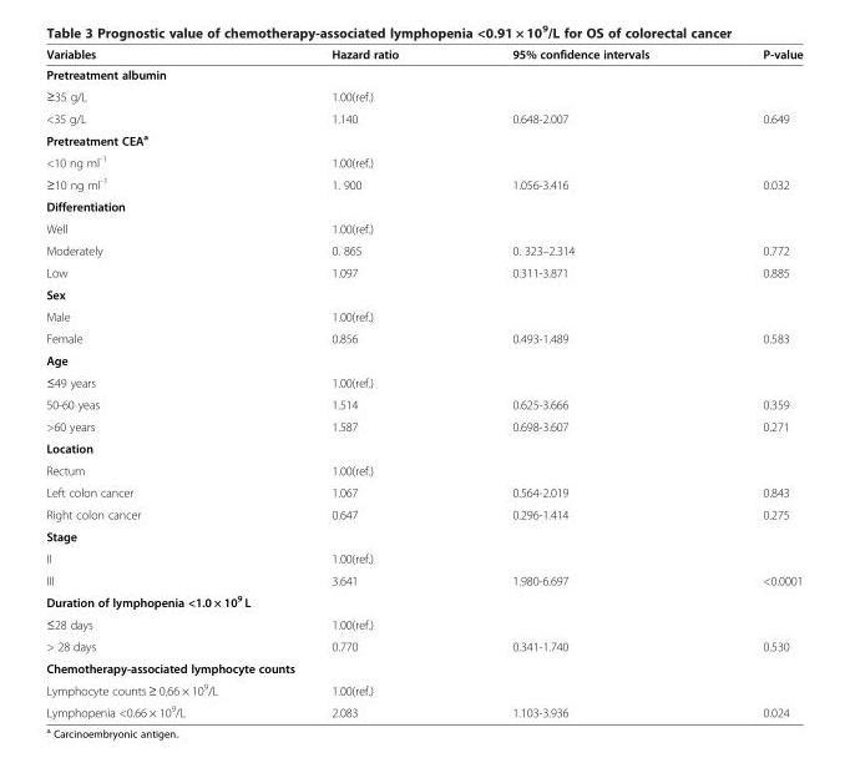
<table><thead><tr><td>Variables</td><td>Hazard ratio</td><td>95% confidence intervals</td><td>P-value</td></tr></thead><tbody><tr><td colspan="4">Pretreatment albumin</td></tr><tr><td>≥35 g/L</td><td>1.00(ref.)</td><td></td><td></td></tr><tr><td>&lt;35 g/L</td><td>1.140</td><td>0.648-2.007</td><td>0.649</td></tr><tr><td colspan="4">Pretreatment CEA<sup>a</sup></td></tr><tr><td>&lt;10 ng ml<sup>-1</sup></td><td>1.00(ref.)</td><td></td><td></td></tr><tr><td>≥10 ng ml<sup>-1</sup></td><td>1. 900</td><td>1.056-3.416</td><td>0.032</td></tr><tr><td colspan="4">Differentiation</td></tr><tr><td>Well</td><td>1.00(ref.)</td><td></td><td></td></tr><tr><td>Moderately</td><td>0. 865</td><td>0. 323–2.314</td><td>0.772</td></tr><tr><td>Low</td><td>1.097</td><td>0.311-3.871</td><td>0.885</td></tr><tr><td colspan="4">Sex</td></tr><tr><td>Male</td><td>1.00(ref.)</td><td></td><td></td></tr><tr><td>Female</td><td>0.856</td><td>0.493-1.489</td><td>0.583</td></tr><tr><td colspan="4">Age</td></tr><tr><td>≤49 years</td><td>1.00(ref.)</td><td></td><td></td></tr><tr><td>50-60 yeas</td><td>1.514</td><td>0.625-3.666</td><td>0.359</td></tr><tr><td>&gt;60 years</td><td>1.587</td><td>0.698-3.607</td><td>0.271</td></tr><tr><td colspan="4">Location</td></tr><tr><td>Rectum</td><td>1.00(ref.)</td><td></td><td></td></tr><tr><td>Left colon cancer</td><td>1.067</td><td>0.564-2.019</td><td>0.843</td></tr><tr><td>Right colon cancer</td><td>0.647</td><td>0.296-1.414</td><td>0.275</td></tr><tr><td colspan="4">Stage</td></tr><tr><td>II</td><td>1.00(ref.)</td><td></td><td></td></tr><tr><td>III</td><td>3.641</td><td>1.980-6.697</td><td>&lt;0.0001</td></tr><tr><td colspan="4">Duration of lymphopenia &lt;1.0 × 10<sup>9</sup> L</td></tr><tr><td>≤28 days</td><td>1.00(ref.)</td><td></td><td></td></tr><tr><td>&gt; 28 days</td><td>0.770</td><td>0.341-1.740</td><td>0.530</td></tr><tr><td colspan="4">Chemotherapy-associated lymphocyte counts</td></tr><tr><td>Lymphocyte counts ≥ 0.66 × 10<sup>9</sup>/L</td><td>1.00(ref.)</td><td></td><td></td></tr><tr><td>Lymphopenia &lt;0.66 × 10<sup>9</sup>/L</td><td>2.083</td><td>1.103-3.936</td><td>0.024</td></tr></tbody></table>